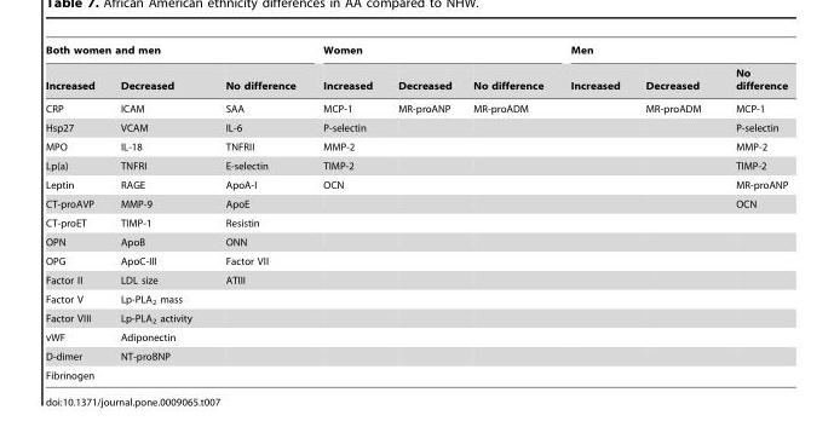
<table><thead><tr><td colspan="3">Both women and men</td><td colspan="3">Women</td><td colspan="3">Men</td></tr><tr><td>Increased</td><td>Decreased</td><td>No difference</td><td>Increased</td><td>Decreased</td><td>No difference</td><td>Increased</td><td>Decreased</td><td>No difference</td></tr></thead><tbody><tr><td>CRP</td><td>ICAM</td><td>SAA</td><td>MCP-1</td><td>MR-proANP</td><td>MR-proADM</td><td></td><td>MR-proADM</td><td>MCP-1</td></tr><tr><td>Hsp27</td><td>VCAM</td><td>IL-6</td><td>P-selectin</td><td></td><td></td><td></td><td></td><td>P-selectin</td></tr><tr><td>MPO</td><td>IL-18</td><td>TNFRII</td><td>MMP-2</td><td></td><td></td><td></td><td></td><td>MMP-2</td></tr><tr><td>Lp(a)</td><td>TNFRI</td><td>E-selectin</td><td>TIMP-2</td><td></td><td></td><td></td><td></td><td>TIMP-2</td></tr><tr><td>Leptin</td><td>RAGE</td><td>ApoA-I</td><td>OCN</td><td></td><td></td><td></td><td></td><td>MR-proANP</td></tr><tr><td>CT-proAVP</td><td>MMP-9</td><td>ApoE</td><td></td><td></td><td></td><td></td><td></td><td>OCN</td></tr><tr><td>CT-proET</td><td>TIMP-1</td><td>Resistin</td><td></td><td></td><td></td><td></td><td></td><td></td></tr><tr><td>OPN</td><td>ApoB</td><td>ONN</td><td></td><td></td><td></td><td></td><td></td><td></td></tr><tr><td>OPG</td><td>ApoC-III</td><td>Factor VII</td><td></td><td></td><td></td><td></td><td></td><td></td></tr><tr><td>Factor II</td><td>LDL size</td><td>ATIII</td><td></td><td></td><td></td><td></td><td></td><td></td></tr><tr><td>Factor V</td><td>Lp-PLA<sub>2</sub> mass</td><td></td><td></td><td></td><td></td><td></td><td></td><td></td></tr><tr><td>Factor VIII</td><td>Lp-PLA<sub>2</sub> activity</td><td></td><td></td><td></td><td></td><td></td><td></td><td></td></tr><tr><td>vWF</td><td>Adiponectin</td><td></td><td></td><td></td><td></td><td></td><td></td><td></td></tr><tr><td>D-dimer</td><td>NT-proBNP</td><td></td><td></td><td></td><td></td><td></td><td></td><td></td></tr><tr><td>Fibrinogen</td><td></td><td></td><td></td><td></td><td></td><td></td><td></td><td></td></tr></tbody></table>